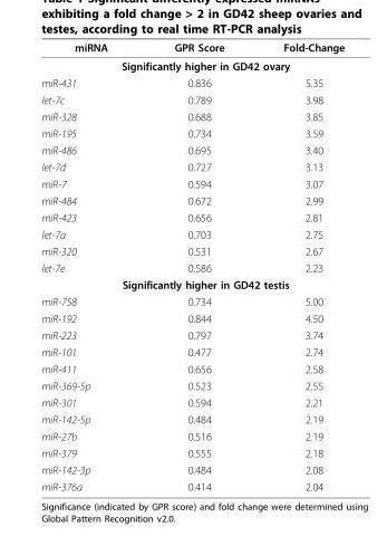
<table><thead><tr><td>miRNA</td><td>GPR Score</td><td>Fold-Change</td></tr></thead><tbody><tr><td colspan="3">Significantly higher in GD42 ovary</td></tr><tr><td>miR-431</td><td>0.836</td><td>5.35</td></tr><tr><td>let-7c</td><td>0.789</td><td>3.98</td></tr><tr><td>miR-328</td><td>0.688</td><td>3.85</td></tr><tr><td>miR-195</td><td>0.734</td><td>3.59</td></tr><tr><td>miR-486</td><td>0.695</td><td>3.40</td></tr><tr><td>let-7d</td><td>0.727</td><td>3.13</td></tr><tr><td>miR-7</td><td>0.594</td><td>3.07</td></tr><tr><td>miR-484</td><td>0.672</td><td>2.99</td></tr><tr><td>miR-423</td><td>0.656</td><td>2.81</td></tr><tr><td>let-7a</td><td>0.703</td><td>2.75</td></tr><tr><td>miR-320</td><td>0.531</td><td>2.67</td></tr><tr><td>let-7e</td><td>0.586</td><td>2.23</td></tr><tr><td colspan="3">Significantly higher in GD42 testis</td></tr><tr><td>miR-758</td><td>0.734</td><td>5.00</td></tr><tr><td>miR-192</td><td>0.844</td><td>4.50</td></tr><tr><td>miR-223</td><td>0.797</td><td>3.74</td></tr><tr><td>miR-101</td><td>0.477</td><td>2.74</td></tr><tr><td>miR-411</td><td>0.656</td><td>2.58</td></tr><tr><td>miR-369-5p</td><td>0.523</td><td>2.55</td></tr><tr><td>miR-301</td><td>0.594</td><td>2.21</td></tr><tr><td>miR-142-5p</td><td>0.484</td><td>2.19</td></tr><tr><td>miR-27b</td><td>0.516</td><td>2.19</td></tr><tr><td>miR-379</td><td>0.555</td><td>2.18</td></tr><tr><td>miR-142-3p</td><td>0.484</td><td>2.08</td></tr><tr><td>miR-376a</td><td>0.414</td><td>2.04</td></tr></tbody></table>